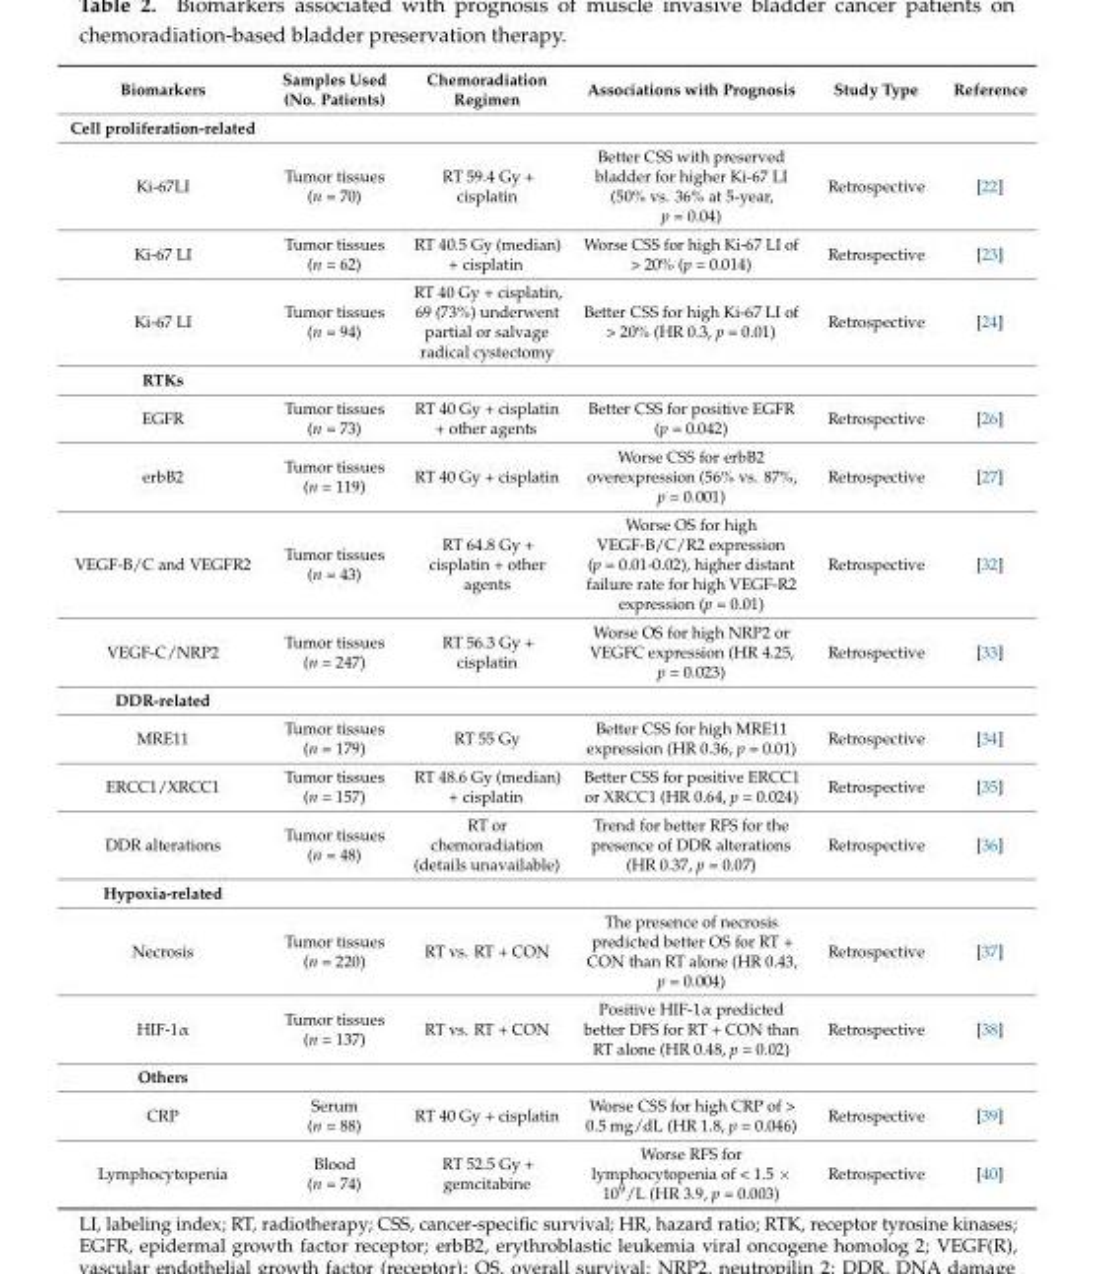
<table><thead><tr><td>Biomarkers</td><td>Samples Used (No. Patients)</td><td>Chemoradiation Regimen</td><td>Associations with Prognosis</td><td>Study Type</td><td>Reference</td></tr></thead><tbody><tr><td colspan="6">Cell proliferation-related</td></tr><tr><td>Ki-67LI</td><td>Tumor tissues (n = 70)</td><td>RT 59.4 Gy + cisplatin</td><td>Better CSS with preserved bladder for higher Ki-67 LI (50% vs. 36% at 5-year, p = 0.04)</td><td>Retrospective</td><td>[22]</td></tr><tr><td>Ki-67 LI</td><td>Tumor tissues (n = 62)</td><td>RT 40.5 Gy (median) + cisplatin</td><td>Worse CSS for high Ki-67 LI of &gt; 20% (p = 0.014)</td><td>Retrospective</td><td>[23]</td></tr><tr><td>Ki-67 LI</td><td>Tumor tissues (n = 94)</td><td>RT 40 Gy + cisplatin, 69 (73%) underwent partial or salvage radical cystectomy</td><td>Better CSS for high Ki-67 LI of &gt; 20% (HR 0.3, p = 0.01)</td><td>Retrospective</td><td>[24]</td></tr><tr><td colspan="6">RTKs</td></tr><tr><td>EGFR</td><td>Tumor tissues (n = 73)</td><td>RT 40 Gy + cisplatin + other agents</td><td>Better CSS for positive EGFR (p = 0.042)</td><td>Retrospective</td><td>[26]</td></tr><tr><td>erbB2</td><td>Tumor tissues (n = 119)</td><td>RT 40 Gy + cisplatin</td><td>Worse CSS for erbB2 overexpression (56% vs. 87%, p = 0.001)</td><td>Retrospective</td><td>[27]</td></tr><tr><td>VEGF-B/C and VEGFR2</td><td>Tumor tissues (n = 43)</td><td>RT 64.8 Gy + cisplatin + other agents</td><td>Worse OS for high VEGF-B/C/R2 expression (p = 0.01-0.02), higher distant failure rate for high VEGF-R2 expression (p = 0.01)</td><td>Retrospective</td><td>[32]</td></tr><tr><td>VEGF-C/NRP2</td><td>Tumor tissues (n = 247)</td><td>RT 56.3 Gy + cisplatin</td><td>Worse OS for high NRP2 or VEGFC expression (HR 4.25, p = 0.023)</td><td>Retrospective</td><td>[33]</td></tr><tr><td colspan="6">DDR-related</td></tr><tr><td>MRE11</td><td>Tumor tissues (n = 179)</td><td>RT 55 Gy</td><td>Better CSS for high MRE11 expression (HR 0.36, p = 0.01)</td><td>Retrospective</td><td>[34]</td></tr><tr><td>ERCC1/XRCC1</td><td>Tumor tissues (n = 157)</td><td>RT 48.6 Gy (median) + cisplatin</td><td>Better CSS for positive ERCC1 or XRCC1 (HR 0.64, p = 0.024)</td><td>Retrospective</td><td>[35]</td></tr><tr><td>DDR alterations</td><td>Tumor tissues (n = 48)</td><td>RT or chemoradiation (details unavailable)</td><td>Trend for better RFS for the presence of DDR alterations (HR 0.37, p = 0.07)</td><td>Retrospective</td><td>[36]</td></tr><tr><td colspan="6">Hypoxia-related</td></tr><tr><td>Necrosis</td><td>Tumor tissues (n = 220)</td><td>RT vs. RT + CON</td><td>The presence of necrosis predicted better OS for RT + CON than RT alone (HR 0.43, p = 0.004)</td><td>Retrospective</td><td>[37]</td></tr><tr><td>HIF-1α</td><td>Tumor tissues (n = 137)</td><td>RT vs. RT + CON</td><td>Positive HIF-1α predicted better DFS for RT + CON than RT alone (HR 0.48, p = 0.02)</td><td>Retrospective</td><td>[38]</td></tr><tr><td colspan="6">Others</td></tr><tr><td>CRP</td><td>Serum (n = 88)</td><td>RT 40 Gy + cisplatin</td><td>Worse CSS for high CRP of &gt; 0.5 mg/dL (HR 1.8, p = 0.046)</td><td>Retrospective</td><td>[39]</td></tr><tr><td>Lymphocytopenia</td><td>Blood (n = 74)</td><td>RT 52.5 Gy + gemcitabine</td><td>Worse RFS for lymphocytopenia of &lt; 1.5 × 10<sup>9</sup>/L (HR 3.9, p = 0.003)</td><td>Retrospective</td><td>[40]</td></tr></tbody></table>